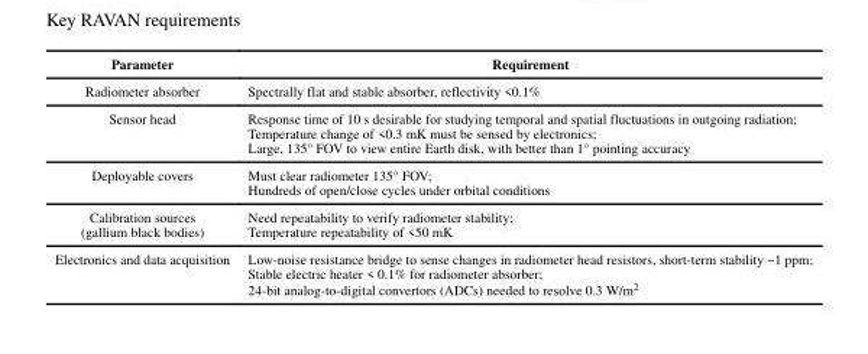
<table><thead><tr><td>Parameter</td><td>Requirement</td></tr></thead><tbody><tr><td>Radiometer absorber</td><td>Spectrally flat and stable absorber, reflectivity &lt;0.1%</td></tr><tr><td>Sensor head</td><td>Response time of 10 s desirable for studying temporal and spatial fluctuations in outgoing radiation; Temperature change of &lt;0.3 mK must be sensed by electronics; Large, 135° FOV to view entire Earth disk, with better than 1° pointing accuracy</td></tr><tr><td>Deployable covers</td><td>Must clear radiometer 135° FOV; Hundreds of open/close cycles under orbital conditions</td></tr><tr><td>Calibration sources (gallium black bodies)</td><td>Need repeatability to verify radiometer stability; Temperature repeatability of &lt;50 mK</td></tr><tr><td>Electronics and data acquisition</td><td>Low-noise resistance bridge to sense changes in radiometer head resistors, short-term stability ~1 ppm; Stable electric heater &lt; 0.1% for radiometer absorber; 24-bit analog-to-digital convertors (ADCs) needed to resolve 0.3 W/m<sup>2</sup></td></tr></tbody></table>